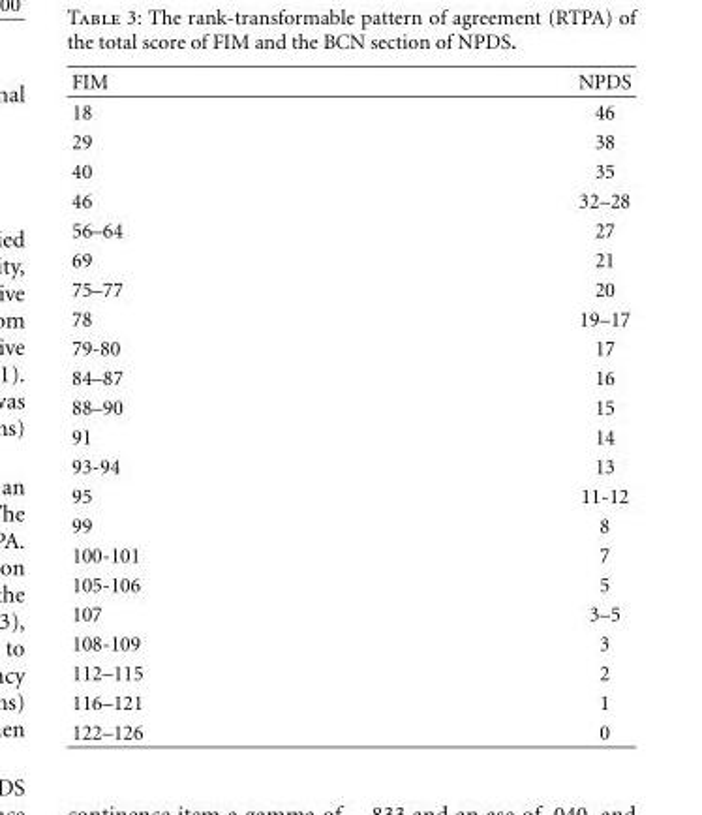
<table><thead><tr><td>FIM</td><td>NPDS</td></tr></thead><tbody><tr><td>18</td><td>46</td></tr><tr><td>29</td><td>38</td></tr><tr><td>40</td><td>35</td></tr><tr><td>46</td><td>32–28</td></tr><tr><td>56–64</td><td>27</td></tr><tr><td>69</td><td>21</td></tr><tr><td>75–77</td><td>20</td></tr><tr><td>78</td><td>19–17</td></tr><tr><td>79-80</td><td>17</td></tr><tr><td>84–87</td><td>16</td></tr><tr><td>88–90</td><td>15</td></tr><tr><td>91</td><td>14</td></tr><tr><td>93-94</td><td>13</td></tr><tr><td>95</td><td>11-12</td></tr><tr><td>99</td><td>8</td></tr><tr><td>100-101</td><td>7</td></tr><tr><td>105-106</td><td>5</td></tr><tr><td>107</td><td>3–5</td></tr><tr><td>108-109</td><td>3</td></tr><tr><td>112–115</td><td>2</td></tr><tr><td>116–121</td><td>1</td></tr><tr><td>122–126</td><td>0</td></tr></tbody></table>